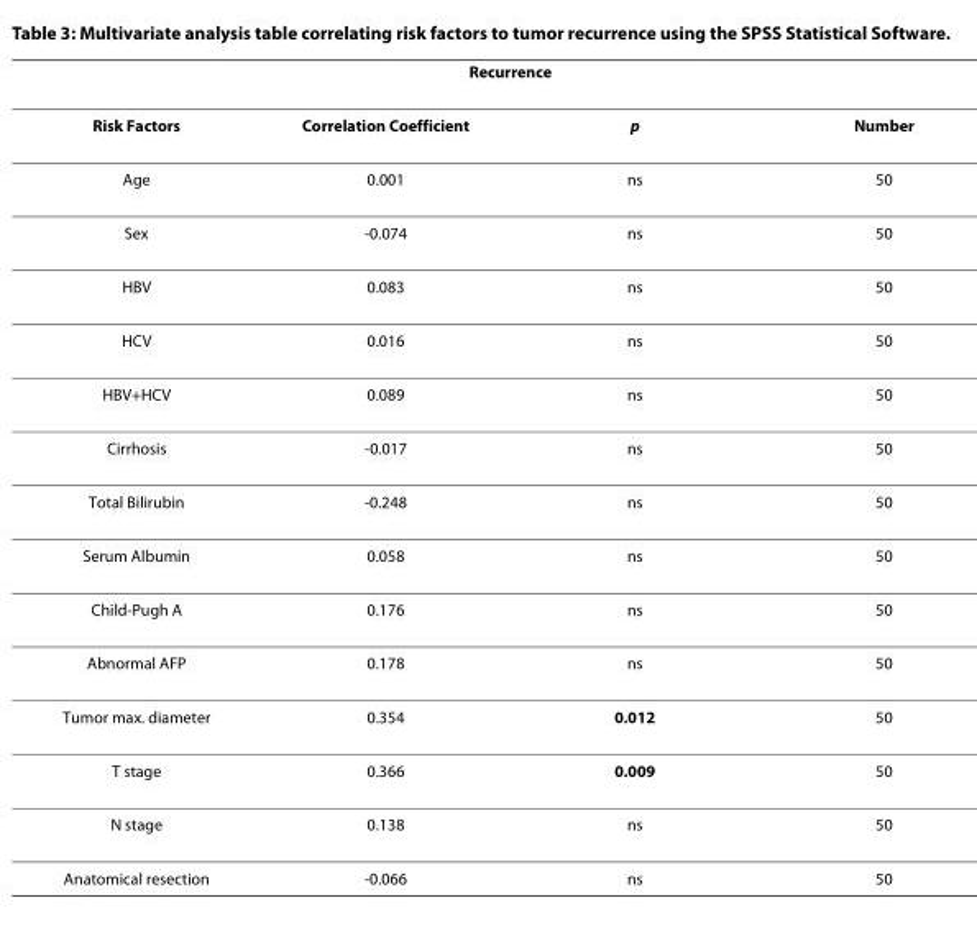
<table><thead><tr><td colspan="4">Recurrence</td></tr><tr><td>Risk Factors</td><td>Correlation Coefficient</td><td>p</td><td>Number</td></tr></thead><tbody><tr><td>Age</td><td>0.001</td><td>ns</td><td>50</td></tr><tr><td>Sex</td><td>-0.074</td><td>ns</td><td>50</td></tr><tr><td>HBV</td><td>0.083</td><td>ns</td><td>50</td></tr><tr><td>HCV</td><td>0.016</td><td>ns</td><td>50</td></tr><tr><td>HBV+HCV</td><td>0.089</td><td>ns</td><td>50</td></tr><tr><td>Cirrhosis</td><td>-0.017</td><td>ns</td><td>50</td></tr><tr><td>Total Bilirubin</td><td>-0.248</td><td>ns</td><td>50</td></tr><tr><td>Serum Albumin</td><td>0.058</td><td>ns</td><td>50</td></tr><tr><td>Child-Pugh A</td><td>0.176</td><td>ns</td><td>50</td></tr><tr><td>Abnormal AFP</td><td>0.178</td><td>ns</td><td>50</td></tr><tr><td>Tumor max. diameter</td><td>0.354</td><td>0.012</td><td>50</td></tr><tr><td>T stage</td><td>0.366</td><td>0.009</td><td>50</td></tr><tr><td>N stage</td><td>0.138</td><td>ns</td><td>50</td></tr><tr><td>Anatomical resection</td><td>-0.066</td><td>ns</td><td>50</td></tr></tbody></table>